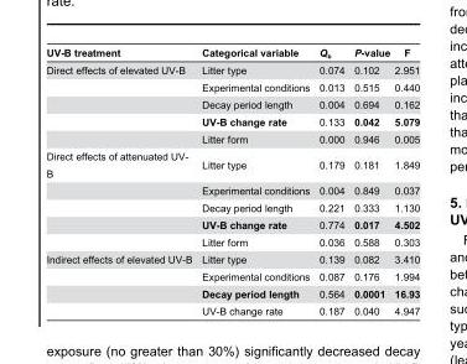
<table><thead><tr><td>UV-B treatment</td><td>Categorical variable</td><td>Q<sub>b</sub></td><td>P-value</td><td>F</td></tr></thead><tbody><tr><td rowspan="5">Direct effects of elevated UV-B</td><td>Litter type</td><td>0.074</td><td>0.102</td><td>2.951</td></tr><tr><td>Experimental conditions</td><td>0.013</td><td>0.515</td><td>0.440</td></tr><tr><td>Decay period length</td><td>0.004</td><td>0.694</td><td>0.162</td></tr><tr><td>UV-B change rate</td><td>0.133</td><td>0.042</td><td>5.079</td></tr><tr><td>Litter form</td><td>0.000</td><td>0.946</td><td>0.005</td></tr><tr><td rowspan="5">Direct effects of attenuated UV- B</td><td>Litter type</td><td>0.179</td><td>0.181</td><td>1.849</td></tr><tr><td>Experimental conditions</td><td>0.004</td><td>0.849</td><td>0.037</td></tr><tr><td>Decay period length</td><td>0.221</td><td>0.333</td><td>1.130</td></tr><tr><td>UV-B change rate</td><td>0.774</td><td>0.017</td><td>4.502</td></tr><tr><td>Litter form</td><td>0.036</td><td>0.588</td><td>0.303</td></tr><tr><td rowspan="4">Indirect effects of elevated UV-B</td><td>Litter type</td><td>0.139</td><td>0.082</td><td>3.410</td></tr><tr><td>Experimental conditions</td><td>0.087</td><td>0.176</td><td>1.994</td></tr><tr><td>Decay period length</td><td>0.564</td><td>0.0001</td><td>16.93</td></tr><tr><td>UV-B change rate</td><td>0.187</td><td>0.040</td><td>4.947</td></tr></tbody></table>